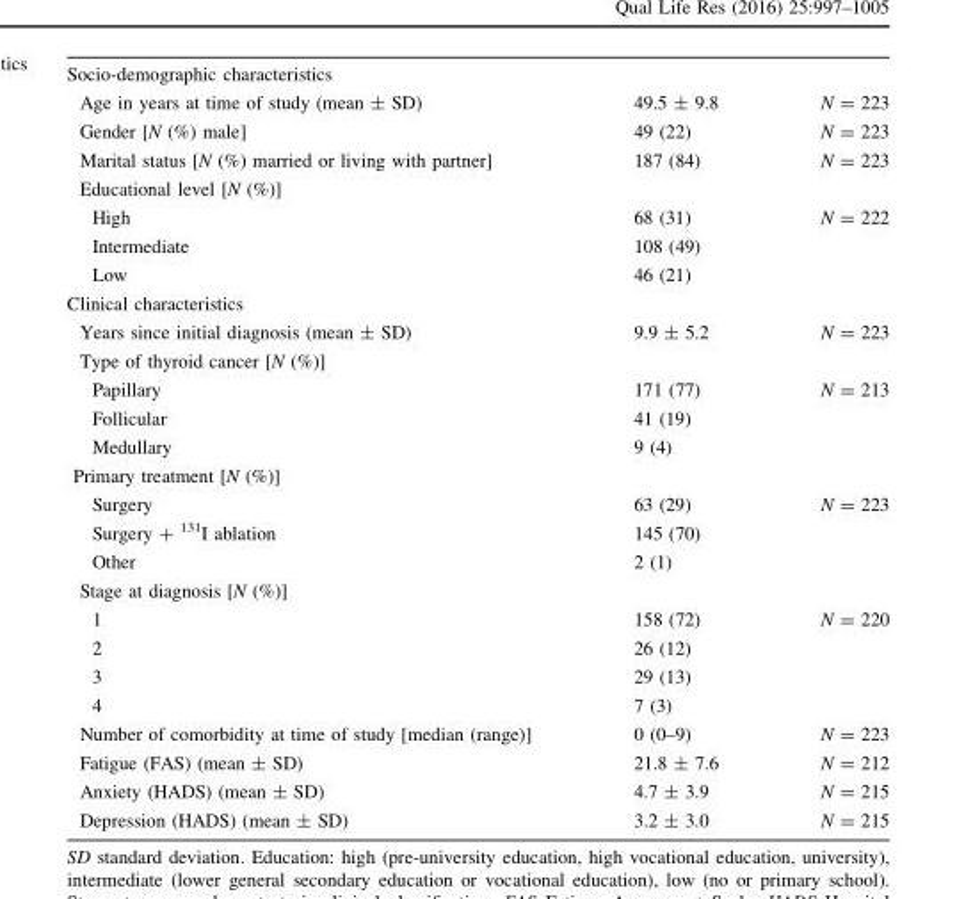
<table><tbody><tr><td colspan="3">Socio-demographic characteristics</td></tr><tr><td>Age in years at time of study (mean ± SD)</td><td>49.5 ± 9.8</td><td>N = 223</td></tr><tr><td>Gender [N (%) male]</td><td>49 (22)</td><td>N = 223</td></tr><tr><td>Marital status [N (%) married or living with partner]</td><td>187 (84)</td><td>N = 223</td></tr><tr><td colspan="3">Educational level [N (%)]</td></tr><tr><td>High</td><td>68 (31)</td><td>N = 222</td></tr><tr><td>Intermediate</td><td>108 (49)</td><td></td></tr><tr><td>Low</td><td>46 (21)</td><td></td></tr><tr><td colspan="3">Clinical characteristics</td></tr><tr><td>Years since initial diagnosis (mean ± SD)</td><td>9.9 ± 5.2</td><td>N = 223</td></tr><tr><td colspan="3">Type of thyroid cancer [N (%)]</td></tr><tr><td>Papillary</td><td>171 (77)</td><td>N = 213</td></tr><tr><td>Follicular</td><td>41 (19)</td><td></td></tr><tr><td>Medullary</td><td>9 (4)</td><td></td></tr><tr><td colspan="3">Primary treatment [N (%)]</td></tr><tr><td>Surgery</td><td>63 (29)</td><td>N = 223</td></tr><tr><td>Surgery + <sup>131</sup>I ablation</td><td>145 (70)</td><td></td></tr><tr><td>Other</td><td>2 (1)</td><td></td></tr><tr><td colspan="3">Stage at diagnosis [N (%)]</td></tr><tr><td>1</td><td>158 (72)</td><td>N = 220</td></tr><tr><td>2</td><td>26 (12)</td><td></td></tr><tr><td>3</td><td>29 (13)</td><td></td></tr><tr><td>4</td><td>7 (3)</td><td></td></tr><tr><td>Number of comorbidity at time of study [median (range)]</td><td>0 (0–9)</td><td>N = 223</td></tr><tr><td>Fatigue (FAS) (mean ± SD)</td><td>21.8 ± 7.6</td><td>N = 212</td></tr><tr><td>Anxiety (HADS) (mean ± SD)</td><td>4.7 ± 3.9</td><td>N = 215</td></tr><tr><td>Depression (HADS) (mean ± SD)</td><td>3.2 ± 3.0</td><td>N = 215</td></tr></tbody></table>